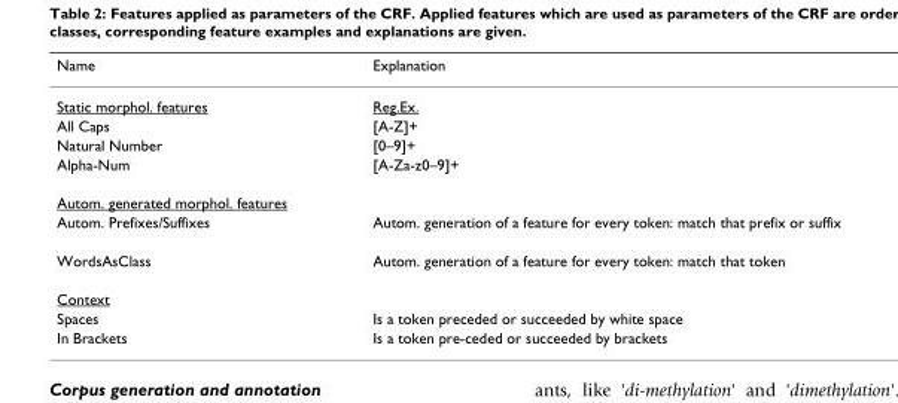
<table><thead><tr><td>Name</td><td>Explanation</td></tr></thead><tbody><tr><td>Static morphol. features</td><td>Reg.Ex.</td></tr><tr><td>All Caps</td><td>[A-Z]+</td></tr><tr><td>Natural Number</td><td>[0–9]+</td></tr><tr><td>Alpha-Num</td><td>[A-Za-z0–9]+</td></tr><tr><td colspan="2">Autom. generated morphol. features</td></tr><tr><td>Autom. Prefixes/Suffixes</td><td>Autom. generation of a feature for every token: match that prefix or suffix</td></tr><tr><td>WordsAsClass</td><td>Autom. generation of a feature for every token: match that token</td></tr><tr><td colspan="2">Context</td></tr><tr><td>Spaces</td><td>Is a token preceded or succeeded by white space</td></tr><tr><td>In Brackets</td><td>Is a token pre-ceded or succeeded by brackets</td></tr></tbody></table>